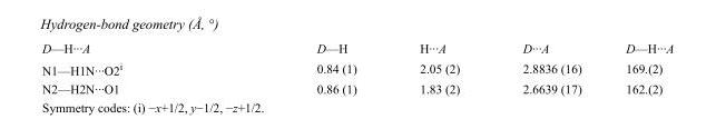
<table><tbody><tr><td>D—H···A</td><td>D—H</td><td>H···A</td><td>D···A</td><td>D—H···A</td></tr><tr><td>N1—H1N···O2<sup>i</sup></td><td>0.84 (1)</td><td>2.05 (2)</td><td>2.8836 (16)</td><td>169.(2)</td></tr><tr><td>N2—H2N···O1</td><td>0.86 (1)</td><td>1.83 (2)</td><td>2.6639 (17)</td><td>162.(2)</td></tr></tbody></table>